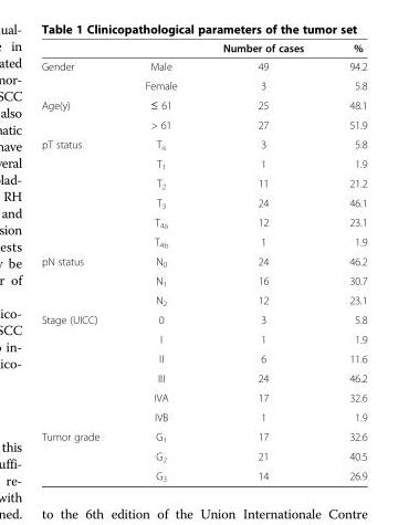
<table><thead><tr><td></td><td></td><td>Number of cases</td><td>%</td></tr></thead><tbody><tr><td rowspan="2">Gender</td><td>Male</td><td>49</td><td>94.2</td></tr><tr><td>Female</td><td>3</td><td>5.8</td></tr><tr><td rowspan="2">Age(y)</td><td>≤ 61</td><td>25</td><td>48.1</td></tr><tr><td>&gt; 61</td><td>27</td><td>51.9</td></tr><tr><td rowspan="6">pT status</td><td>T<sub>is</sub></td><td>3</td><td>5.8</td></tr><tr><td>T<sub>1</sub></td><td>1</td><td>1.9</td></tr><tr><td>T<sub>2</sub></td><td>11</td><td>21.2</td></tr><tr><td>T<sub>3</sub></td><td>24</td><td>46.1</td></tr><tr><td>T<sub>4a</sub></td><td>12</td><td>23.1</td></tr><tr><td>T<sub>4b</sub></td><td>1</td><td>1.9</td></tr><tr><td rowspan="3">pN status</td><td>N<sub>0</sub></td><td>24</td><td>46.2</td></tr><tr><td>N<sub>1</sub></td><td>16</td><td>30.7</td></tr><tr><td>N<sub>2</sub></td><td>12</td><td>23.1</td></tr><tr><td rowspan="6">Stage (UICC)</td><td>0</td><td>3</td><td>5.8</td></tr><tr><td>I</td><td>1</td><td>1.9</td></tr><tr><td>II</td><td>6</td><td>11.6</td></tr><tr><td>III</td><td>24</td><td>46.2</td></tr><tr><td>IVA</td><td>17</td><td>32.6</td></tr><tr><td>IVB</td><td>1</td><td>1.9</td></tr><tr><td rowspan="3">Tumor grade</td><td>G<sub>1</sub></td><td>17</td><td>32.6</td></tr><tr><td>G<sub>2</sub></td><td>21</td><td>40.5</td></tr><tr><td>G<sub>3</sub></td><td>14</td><td>26.9</td></tr></tbody></table>